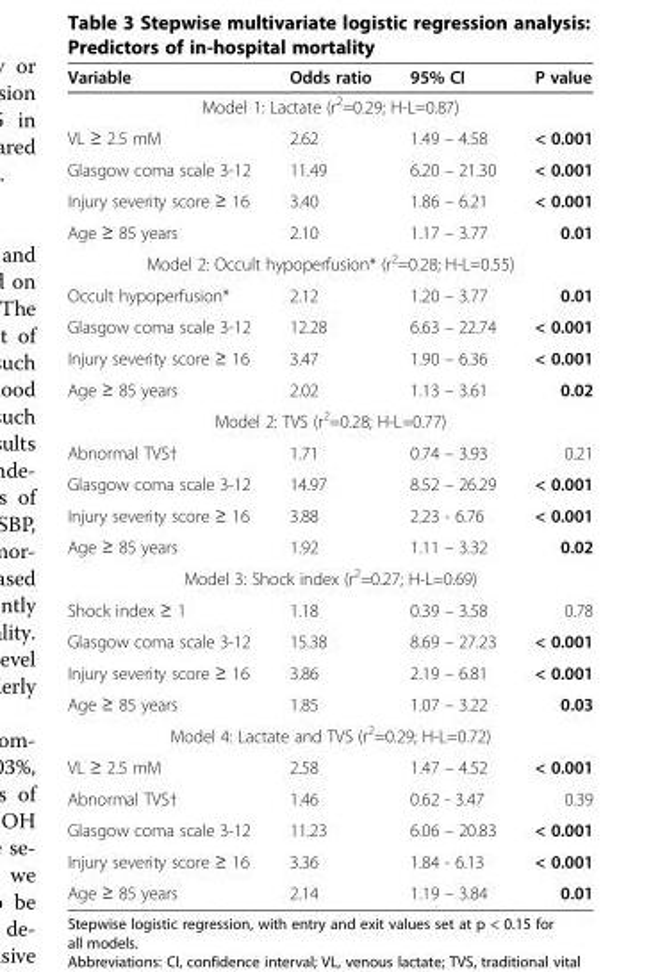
<table><thead><tr><td>Variable</td><td>Odds ratio</td><td>95% CI</td><td>P value</td></tr></thead><tbody><tr><td colspan="4">Model 1: Lactate (r<sup>2</sup>=0.29; H-L=0.87)</td></tr><tr><td>VL ≥ 2.5 mM</td><td>2.62</td><td>1.49 – 4.58</td><td>&lt; 0.001</td></tr><tr><td>Glasgow coma scale 3-12</td><td>11.49</td><td>6.20 – 21.30</td><td>&lt; 0.001</td></tr><tr><td>Injury severity score ≥ 16</td><td>3.40</td><td>1.86 – 6.21</td><td>&lt; 0.001</td></tr><tr><td>Age ≥ 85 years</td><td>2.10</td><td>1.17 – 3.77</td><td>0.01</td></tr><tr><td colspan="4">Model 2: Occult hypoperfusion* (r<sup>2</sup>=0.28; H-L=0.55)</td></tr><tr><td>Occult hypoperfusion*</td><td>2.12</td><td>1.20 – 3.77</td><td>0.01</td></tr><tr><td>Glasgow coma scale 3-12</td><td>12.28</td><td>6.63 – 22.74</td><td>&lt; 0.001</td></tr><tr><td>Injury severity score ≥ 16</td><td>3.47</td><td>1.90 – 6.36</td><td>&lt; 0.001</td></tr><tr><td>Age ≥ 85 years</td><td>2.02</td><td>1.13 – 3.61</td><td>0.02</td></tr><tr><td colspan="4">Model 2: TVS (r<sup>2</sup>=0.28; H-L=0.77)</td></tr><tr><td>Abnormal TVS†</td><td>1.71</td><td>0.74 – 3.93</td><td>0.21</td></tr><tr><td>Glasgow coma scale 3-12</td><td>14.97</td><td>8.52 – 26.29</td><td>&lt; 0.001</td></tr><tr><td>Injury severity score ≥ 16</td><td>3.88</td><td>2.23 - 6.76</td><td>&lt; 0.001</td></tr><tr><td>Age ≥ 85 years</td><td>1.92</td><td>1.11 – 3.32</td><td>0.02</td></tr><tr><td colspan="4">Model 3: Shock index (r<sup>2</sup>=0.27; H-L=0.69)</td></tr><tr><td>Shock index ≥ 1</td><td>1.18</td><td>0.39 – 3.58</td><td>0.78</td></tr><tr><td>Glasgow coma scale 3-12</td><td>15.38</td><td>8.69 – 27.23</td><td>&lt; 0.001</td></tr><tr><td>Injury severity score ≥ 16</td><td>3.86</td><td>2.19 – 6.81</td><td>&lt; 0.001</td></tr><tr><td>Age ≥ 85 years</td><td>1.85</td><td>1.07 – 3.22</td><td>0.03</td></tr><tr><td colspan="4">Model 4: Lactate and TVS (r<sup>2</sup>=0.29; H-L=0.72)</td></tr><tr><td>VL ≥ 2.5 mM</td><td>2.58</td><td>1.47 – 4.52</td><td>&lt; 0.001</td></tr><tr><td>Abnormal TVS†</td><td>1.46</td><td>0.62 - 3.47</td><td>0.39</td></tr><tr><td>Glasgow coma scale 3-12</td><td>11.23</td><td>6.06 – 20.83</td><td>&lt; 0.001</td></tr><tr><td>Injury severity score ≥ 16</td><td>3.36</td><td>1.84 - 6.13</td><td>&lt; 0.001</td></tr><tr><td>Age ≥ 85 years</td><td>2.14</td><td>1.19 – 3.84</td><td>0.01</td></tr></tbody></table>